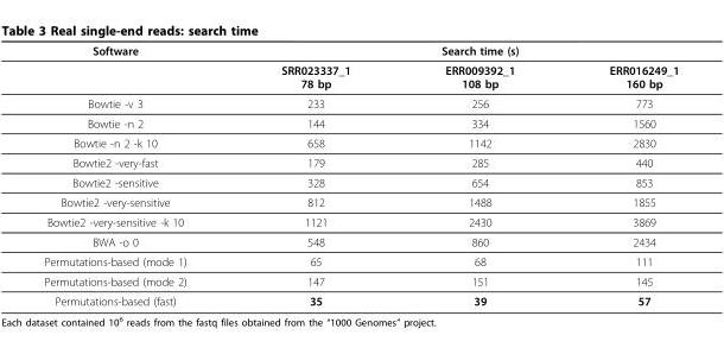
<table><thead><tr><td rowspan="2">Software</td><td colspan="3">Search time (s)</td></tr><tr><td>SRR023337_1 78 bp</td><td>ERR009392_1 108 bp</td><td>ERR016249_1 160 bp</td></tr></thead><tbody><tr><td>Bowtie -v 3</td><td>233</td><td>256</td><td>773</td></tr><tr><td>Bowtie -n 2</td><td>144</td><td>334</td><td>1560</td></tr><tr><td>Bowtie -n 2 -k 10</td><td>658</td><td>1142</td><td>2830</td></tr><tr><td>Bowtie2 -very-fast</td><td>179</td><td>285</td><td>440</td></tr><tr><td>Bowtie2 -sensitive</td><td>328</td><td>654</td><td>853</td></tr><tr><td>Bowtie2 -very-sensitive</td><td>812</td><td>1488</td><td>1855</td></tr><tr><td>Bowtie2 -very-sensitive -k 10</td><td>1121</td><td>2430</td><td>3869</td></tr><tr><td>BWA -o 0</td><td>548</td><td>860</td><td>2434</td></tr><tr><td>Permutations-based (mode 1)</td><td>65</td><td>68</td><td>111</td></tr><tr><td>Permutations-based (mode 2)</td><td>147</td><td>151</td><td>145</td></tr><tr><td>Permutations-based (fast)</td><td>35</td><td>39</td><td>57</td></tr></tbody></table>